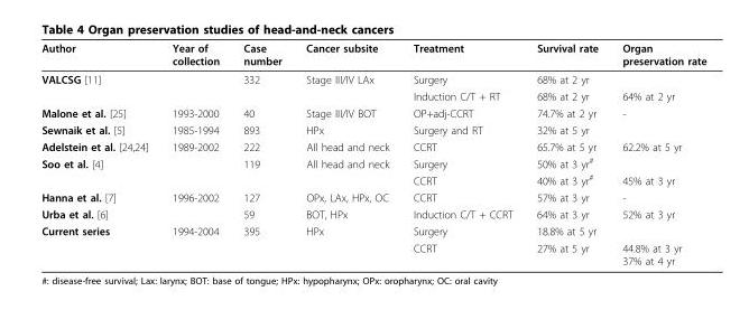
<table><thead><tr><td>Author</td><td>Year of collection</td><td>Case number</td><td>Cancer subsite</td><td>Treatment</td><td>Survival rate</td><td>Organ preservation rate</td></tr></thead><tbody><tr><td rowspan="2">VALCSG [11]</td><td></td><td>332</td><td>Stage III/IV LAx</td><td>Surgery</td><td>68% at 2 yr</td><td></td></tr><tr><td></td><td></td><td></td><td>Induction C/T + RT</td><td>68% at 2 yr</td><td>64% at 2 yr</td></tr><tr><td>Malone et al. [25]</td><td>1993-2000</td><td>40</td><td>Stage III/IV BOT</td><td>OP+adj-CCRT</td><td>74.7% at 2 yr</td><td>-</td></tr><tr><td>Sewnaik et al. [5]</td><td>1985-1994</td><td>893</td><td>HPx</td><td>Surgery and RT</td><td>32% at 5 yr</td><td></td></tr><tr><td>Adelstein et al. [24,24]</td><td>1989-2002</td><td>222</td><td>All head and neck</td><td>CCRT</td><td>65.7% at 5 yr</td><td>62.2% at 5 yr</td></tr><tr><td rowspan="2">Soo et al. [4]</td><td></td><td>119</td><td>All head and neck</td><td>Surgery</td><td>50% at 3 yr<sup>#</sup></td><td></td></tr><tr><td></td><td></td><td></td><td>CCRT</td><td>40% at 3 yr<sup>#</sup></td><td>45% at 3 yr</td></tr><tr><td>Hanna et al. [7]</td><td>1996-2002</td><td>127</td><td>OPx, LAx, HPx, OC</td><td>CCRT</td><td>57% at 3 yr</td><td>-</td></tr><tr><td>Urba et al. [6]</td><td></td><td>59</td><td>BOT, HPx</td><td>Induction C/T + CCRT</td><td>64% at 3 yr</td><td>52% at 3 yr</td></tr><tr><td rowspan="2">Current series</td><td>1994-2004</td><td>395</td><td>HPx</td><td>Surgery</td><td>18.8% at 5 yr</td><td></td></tr><tr><td></td><td></td><td></td><td>CCRT</td><td>27% at 5 yr</td><td>44.8% at 3 yr 37% at 4 yr</td></tr></tbody></table>